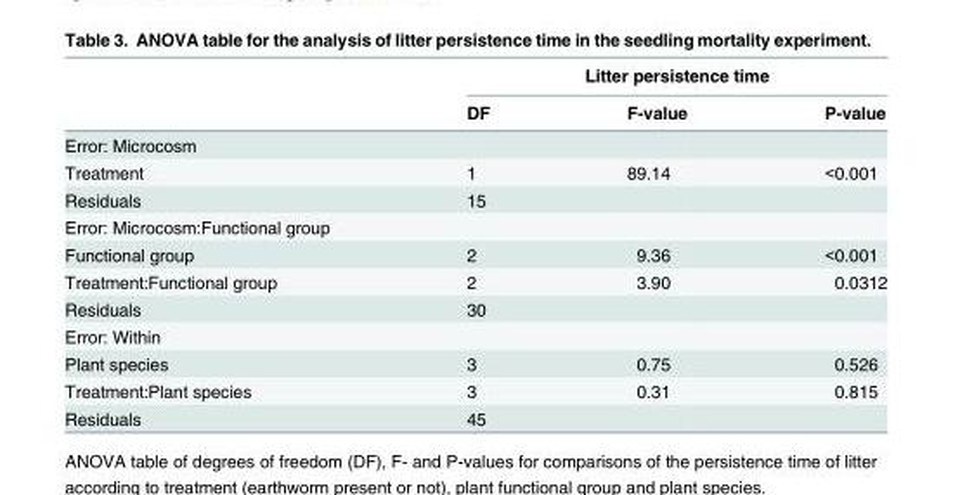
<table><thead><tr><td rowspan="2"></td><td colspan="3">Litter persistence time</td></tr><tr><td>DF</td><td>F-value</td><td>P-value</td></tr></thead><tbody><tr><td colspan="4">Error: Microcosm</td></tr><tr><td>Treatment</td><td>1</td><td>89.14</td><td>&lt;0.001</td></tr><tr><td>Residuals</td><td>15</td><td></td><td></td></tr><tr><td colspan="4">Error: Microcosm:Functional group</td></tr><tr><td>Functional group</td><td>2</td><td>9.36</td><td>&lt;0.001</td></tr><tr><td>Treatment:Functional group</td><td>2</td><td>3.90</td><td>0.0312</td></tr><tr><td>Residuals</td><td>30</td><td></td><td></td></tr><tr><td colspan="4">Error: Within</td></tr><tr><td>Plant species</td><td>3</td><td>0.75</td><td>0.526</td></tr><tr><td>Treatment:Plant species</td><td>3</td><td>0.31</td><td>0.815</td></tr><tr><td>Residuals</td><td>45</td><td></td><td></td></tr></tbody></table>